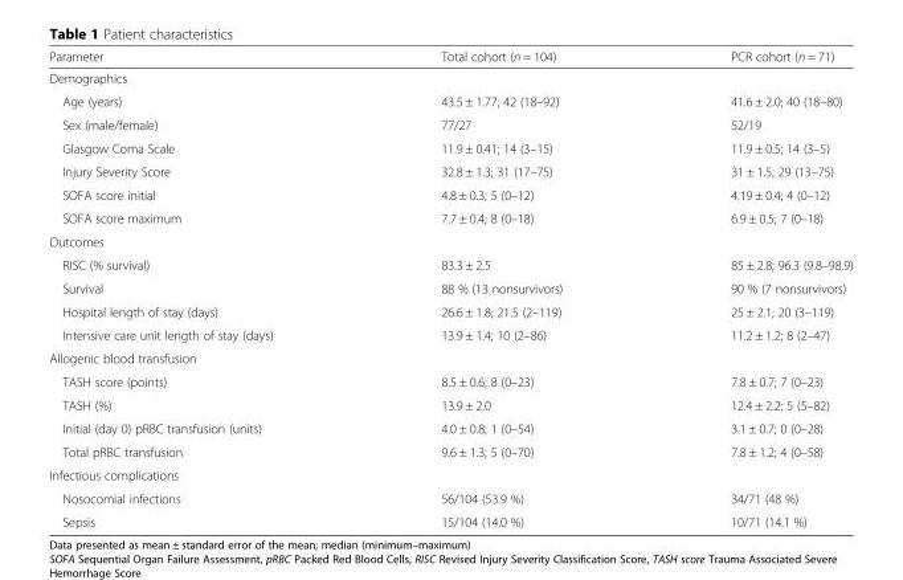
<table><thead><tr><td>Parameter</td><td>Total cohort (n = 104)</td><td>PCR cohort (n = 71)</td></tr></thead><tbody><tr><td colspan="3">Demographics</td></tr><tr><td>Age (years)</td><td>43.5 ± 1.77; 42 (18–92)</td><td>41.6 ± 2.0; 40 (18–80)</td></tr><tr><td>Sex (male/female)</td><td>77/27</td><td>52/19</td></tr><tr><td>Glasgow Coma Scale</td><td>11.9 ± 0.41; 14 (3–15)</td><td>11.9 ± 0.5; 14 (3–5)</td></tr><tr><td>Injury Severity Score</td><td>32.8 ± 1.3; 31 (17–75)</td><td>31 ± 1.5; 29 (13–75)</td></tr><tr><td>SOFA score initial</td><td>4.8 ± 0.3; 5 (0–12)</td><td>4.19 ± 0.4; 4 (0–12)</td></tr><tr><td>SOFA score maximum</td><td>7.7 ± 0.4; 8 (0–18)</td><td>6.9 ± 0.5; 7 (0–18)</td></tr><tr><td colspan="3">Outcomes</td></tr><tr><td>RISC (% survival)</td><td>83.3 ± 2.5</td><td>85 ± 2.8; 96.3 (9.8–98.9)</td></tr><tr><td>Survival</td><td>88 % (13 nonsurvivors)</td><td>90 % (7 nonsurvivors)</td></tr><tr><td>Hospital length of stay (days)</td><td>26.6 ± 1.8; 21.5 (2–119)</td><td>25 ± 2.1; 20 (3–119)</td></tr><tr><td>Intensive care unit length of stay (days)</td><td>13.9 ± 1.4; 10 (2–86)</td><td>11.2 ± 1.2; 8 (2–47)</td></tr><tr><td colspan="3">Allogenic blood transfusion</td></tr><tr><td>TASH score (points)</td><td>8.5 ± 0.6; 8 (0–23)</td><td>7.8 ± 0.7; 7 (0–23)</td></tr><tr><td>TASH (%)</td><td>13.9 ± 2.0</td><td>12.4 ± 2.2; 5 (5–82)</td></tr><tr><td>Initial (day 0) pRBC transfusion (units)</td><td>4.0 ± 0.8; 1 (0–54)</td><td>3.1 ± 0.7; 0 (0–28)</td></tr><tr><td>Total pRBC transfusion</td><td>9.6 ± 1.3; 5 (0–70)</td><td>7.8 ± 1.2; 4 (0–58)</td></tr><tr><td colspan="3">Infectious complications</td></tr><tr><td>Nosocomial infections</td><td>56/104 (53.9 %)</td><td>34/71 (48 %)</td></tr><tr><td>Sepsis</td><td>15/104 (14.0 %)</td><td>10/71 (14.1 %)</td></tr></tbody></table>